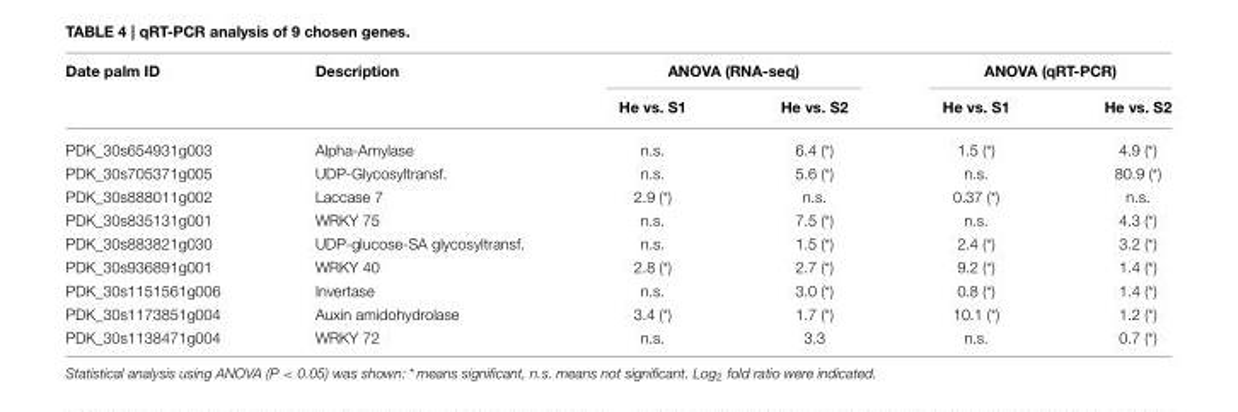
<table><thead><tr><td rowspan="2">Date palm ID</td><td rowspan="2">Description</td><td colspan="2">ANOVA (RNA-seq)</td><td colspan="2">ANOVA (qRT-PCR)</td></tr><tr><td>He vs. S1</td><td>He vs. S2</td><td>He vs. S1</td><td>He vs. S2</td></tr></thead><tbody><tr><td>PDK_30s654931g003</td><td>Alpha-Amylase</td><td>n.s.</td><td>6.4 (*)</td><td>1.5 (*)</td><td>4.9 (*)</td></tr><tr><td>PDK_30s705371g005</td><td>UDP-Glycosyltransf.</td><td>n.s.</td><td>5.6 (*)</td><td>n.s.</td><td>80.9 (*)</td></tr><tr><td>PDK_30s888011g002</td><td>Laccase 7</td><td>2.9 (*)</td><td>n.s.</td><td>0.37 (*)</td><td>n.s.</td></tr><tr><td>PDK_30s835131g001</td><td>WRKY 75</td><td>n.s.</td><td>7.5 (*)</td><td>n.s.</td><td>4.3 (*)</td></tr><tr><td>PDK_30s883821g030</td><td>UDP-glucose-SA glycosyltransf.</td><td>n.s.</td><td>1.5 (*)</td><td>2.4 (*)</td><td>3.2 (*)</td></tr><tr><td>PDK_30s936891g001</td><td>WRKY 40</td><td>2.8 (*)</td><td>2.7 (*)</td><td>9.2 (*)</td><td>1.4 (*)</td></tr><tr><td>PDK_30s1151561g006</td><td>Invertase</td><td>n.s.</td><td>3.0 (*)</td><td>0.8 (*)</td><td>1.4 (*)</td></tr><tr><td>PDK_30s1173851g004</td><td>Auxin amidohydrolase</td><td>3.4 (*)</td><td>1.7 (*)</td><td>10.1 (*)</td><td>1.2 (*)</td></tr><tr><td>PDK_30s1138471g004</td><td>WRKY 72</td><td>n.s.</td><td>3.3</td><td>n.s.</td><td>0.7 (*)</td></tr></tbody></table>